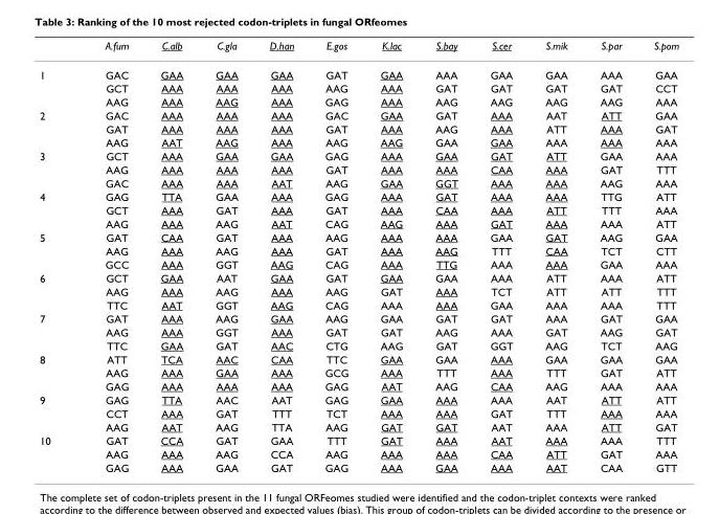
<table><thead><tr><td></td><td>A.fum</td><td>C.alb</td><td>C.gla</td><td>D.han</td><td>E.gos</td><td>K.lac</td><td>S.bay</td><td>S.cer</td><td>S.mik</td><td>S.par</td><td>S.pom</td></tr></thead><tbody><tr><td rowspan="3">1</td><td>GAC</td><td>GAA</td><td>GAA</td><td>GAA</td><td>GAT</td><td>GAA</td><td>AAA</td><td>GAA</td><td>GAA</td><td>AAA</td><td>GAA</td></tr><tr><td>GCT</td><td>AAA</td><td>AAA</td><td>AAA</td><td>AAG</td><td>AAA</td><td>GAT</td><td>GAT</td><td>GAT</td><td>GAT</td><td>CCT</td></tr><tr><td>AAG</td><td>AAA</td><td>AAG</td><td>AAA</td><td>GAG</td><td>AAA</td><td>AAG</td><td>AAG</td><td>AAG</td><td>AAG</td><td>AAA</td></tr><tr><td rowspan="3">2</td><td>GAC</td><td>AAA</td><td>AAA</td><td>AAA</td><td>GAC</td><td>GAA</td><td>GAT</td><td>AAA</td><td>AAT</td><td>ATT</td><td>GAA</td></tr><tr><td>GAT</td><td>AAA</td><td>AAA</td><td>AAA</td><td>GAT</td><td>AAA</td><td>AAG</td><td>AAA</td><td>ATT</td><td>AAA</td><td>GAT</td></tr><tr><td>AAG</td><td>AAT</td><td>AAG</td><td>AAA</td><td>AAG</td><td>AAG</td><td>GAA</td><td>GAA</td><td>AAA</td><td>AAA</td><td>AAA</td></tr><tr><td rowspan="3">3</td><td>GCT</td><td>AAA</td><td>GAA</td><td>GAA</td><td>GAG</td><td>AAA</td><td>GAA</td><td>GAT</td><td>ATT</td><td>GAA</td><td>AAA</td></tr><tr><td>AAG</td><td>AAA</td><td>AAA</td><td>AAA</td><td>GAT</td><td>AAA</td><td>AAA</td><td>CAA</td><td>AAA</td><td>GAT</td><td>TTT</td></tr><tr><td>GAC</td><td>AAA</td><td>AAA</td><td>AAT</td><td>AAG</td><td>GAA</td><td>GGT</td><td>AAA</td><td>AAA</td><td>AAG</td><td>AAA</td></tr><tr><td rowspan="3">4</td><td>GAG</td><td>TTA</td><td>GAA</td><td>AAA</td><td>GAG</td><td>AAA</td><td>GAT</td><td>AAA</td><td>AAA</td><td>TTG</td><td>ATT</td></tr><tr><td>GCT</td><td>AAA</td><td>GAT</td><td>AAA</td><td>GAT</td><td>AAA</td><td>CAA</td><td>AAA</td><td>ATT</td><td>TTT</td><td>AAA</td></tr><tr><td>AAG</td><td>AAA</td><td>AAG</td><td>AAT</td><td>CAG</td><td>AAG</td><td>AAA</td><td>GAT</td><td>AAA</td><td>AAA</td><td>ATT</td></tr><tr><td rowspan="3">5</td><td>GAT</td><td>CAA</td><td>GAT</td><td>AAA</td><td>AAG</td><td>AAA</td><td>AAA</td><td>GAA</td><td>GAT</td><td>AAG</td><td>GAA</td></tr><tr><td>AAG</td><td>AAA</td><td>AAG</td><td>AAA</td><td>GAT</td><td>AAA</td><td>AAG</td><td>TTT</td><td>CAA</td><td>TCT</td><td>CTT</td></tr><tr><td>GCC</td><td>AAA</td><td>GGT</td><td>AAG</td><td>CAG</td><td>AAA</td><td>TTG</td><td>AAA</td><td>AAA</td><td>GAA</td><td>AAA</td></tr><tr><td rowspan="3">6</td><td>GCT</td><td>GAA</td><td>AAT</td><td>GAA</td><td>GAT</td><td>GAA</td><td>GAA</td><td>AAA</td><td>ATT</td><td>AAA</td><td>ATT</td></tr><tr><td>AAG</td><td>AAA</td><td>AAG</td><td>AAA</td><td>AAG</td><td>GAT</td><td>AAA</td><td>TCT</td><td>ATT</td><td>ATT</td><td>TTT</td></tr><tr><td>TTC</td><td>AAT</td><td>GGT</td><td>AAG</td><td>CAG</td><td>AAA</td><td>AAA</td><td>GAA</td><td>AAA</td><td>AAA</td><td>TTT</td></tr><tr><td rowspan="3">7</td><td>GAT</td><td>AAA</td><td>AAG</td><td>GAA</td><td>AAG</td><td>GAA</td><td>GAT</td><td>GAT</td><td>AAA</td><td>GAT</td><td>GAA</td></tr><tr><td>AAG</td><td>AAA</td><td>GGT</td><td>AAA</td><td>GAT</td><td>GAT</td><td>AAG</td><td>AAA</td><td>GAT</td><td>AAG</td><td>GAT</td></tr><tr><td>TTC</td><td>GAA</td><td>GAT</td><td>AAC</td><td>CTG</td><td>AAG</td><td>GAT</td><td>GGT</td><td>AAG</td><td>TCT</td><td>AAG</td></tr><tr><td rowspan="3">8</td><td>ATT</td><td>TCA</td><td>AAC</td><td>CAA</td><td>TTC</td><td>GAA</td><td>GAA</td><td>AAA</td><td>GAA</td><td>GAA</td><td>GAA</td></tr><tr><td>AAG</td><td>AAA</td><td>GAA</td><td>AAA</td><td>GCG</td><td>AAA</td><td>TTT</td><td>AAA</td><td>TTT</td><td>GAT</td><td>ATT</td></tr><tr><td>GAG</td><td>AAA</td><td>AAA</td><td>AAA</td><td>GAG</td><td>AAT</td><td>AAG</td><td>CAA</td><td>AAG</td><td>AAA</td><td>AAA</td></tr><tr><td rowspan="3">9</td><td>GAG</td><td>TTA</td><td>AAC</td><td>AAT</td><td>GAG</td><td>GAA</td><td>AAA</td><td>AAA</td><td>AAT</td><td>ATT</td><td>ATT</td></tr><tr><td>CCT</td><td>AAA</td><td>GAT</td><td>TTT</td><td>TCT</td><td>AAA</td><td>AAA</td><td>GAT</td><td>TTT</td><td>AAA</td><td>AAA</td></tr><tr><td>AAG</td><td>AAT</td><td>AAG</td><td>TTA</td><td>AAG</td><td>GAT</td><td>GAT</td><td>AAT</td><td>AAA</td><td>ATT</td><td>GAT</td></tr><tr><td rowspan="3">10</td><td>GAT</td><td>CCA</td><td>GAT</td><td>GAA</td><td>TTT</td><td>GAT</td><td>AAA</td><td>AAT</td><td>AAA</td><td>AAA</td><td>TTT</td></tr><tr><td>AAG</td><td>AAA</td><td>AAG</td><td>CCA</td><td>AAG</td><td>AAA</td><td>AAA</td><td>CAA</td><td>ATT</td><td>GAT</td><td>AAA</td></tr><tr><td>GAG</td><td>AAA</td><td>GAA</td><td>GAT</td><td>GAG</td><td>AAA</td><td>GAA</td><td>AAA</td><td>AAT</td><td>CAA</td><td>GTT</td></tr></tbody></table>